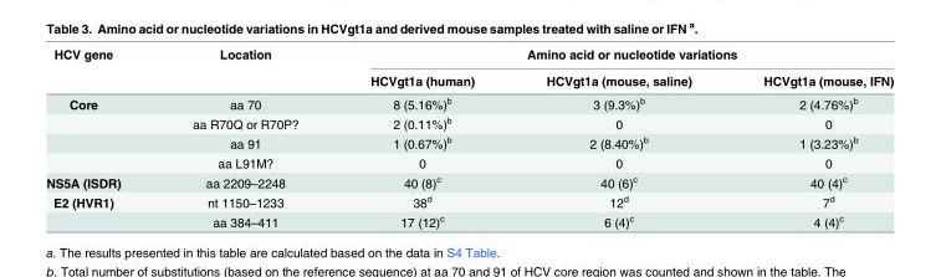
<table><thead><tr><td rowspan="2">HCV gene</td><td rowspan="2">Location</td><td colspan="3">Amino acid or nucleotide variations</td></tr><tr><td>HCVgt1a (human)</td><td>HCVgt1a (mouse, saline)</td><td>HCVgt1a (mouse, IFN)</td></tr></thead><tbody><tr><td rowspan="4">Core</td><td>aa 70</td><td>8 (5.16%)<sup>b</sup></td><td>3 (9.3%)<sup>b</sup></td><td>2 (4.76%)<sup>b</sup></td></tr><tr><td>aa R70Q or R70P?</td><td>2 (0.11%)<sup>b</sup></td><td>0</td><td>0</td></tr><tr><td>aa 91</td><td>1 (0.67%)<sup>b</sup></td><td>2 (8.40%)<sup>b</sup></td><td>1 (3.23%)<sup>b</sup></td></tr><tr><td>aa L91M?</td><td>0</td><td>0</td><td>0</td></tr><tr><td>NS5A (ISDR)</td><td>aa 2209–2248</td><td>40 (8)<sup>c</sup></td><td>40 (6)<sup>c</sup></td><td>40 (4)<sup>c</sup></td></tr><tr><td rowspan="2">E2 (HVR1)</td><td>nt 1150–1233</td><td>38<sup>d</sup></td><td>12<sup>d</sup></td><td>7<sup>d</sup></td></tr><tr><td>aa 384–411</td><td>17 (12)<sup>c</sup></td><td>6 (4)<sup>c</sup></td><td>4 (4)<sup>c</sup></td></tr></tbody></table>